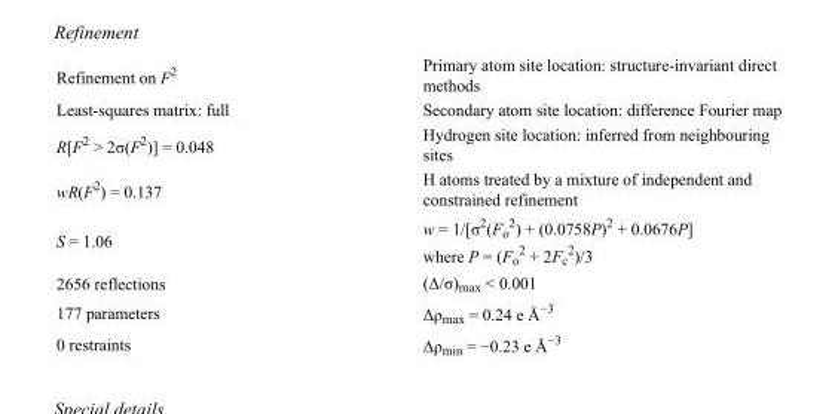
<table><tbody><tr><td>Refinement on F<sup>2</sup></td><td>Primary atom site location: structure-invariant direct methods</td></tr><tr><td>Least-squares matrix: full</td><td>Secondary atom site location: difference Fourier map</td></tr><tr><td>R[F<sup>2</sup> &gt; 2σ(F<sup>2</sup>)] = 0.048</td><td>Hydrogen site location: inferred from neighbouring sites</td></tr><tr><td>wR(F<sup>2</sup>) = 0.137</td><td>H atoms treated by a mixture of independent and constrained refinement</td></tr><tr><td>S = 1.06</td><td>w = 1/[σ<sup>2</sup>(F<sub>o</sub> <sup>2</sup>) + (0.0758P)<sup>2</sup> + 0.0676P] where P = (F<sub>o</sub> <sup>2</sup> + 2F<sub>c</sub> <sup>2</sup>)/3</td></tr><tr><td>2656 reflections</td><td>(Δ/σ)<sub>max</sub> &lt; 0.001</td></tr><tr><td>177 parameters</td><td>Δρ<sub>max</sub> = 0.24 e Å<sup>−3</sup></td></tr><tr><td>0 restraints</td><td>Δρ<sub>min</sub> = −0.23 e Å<sup>−3</sup></td></tr></tbody></table>